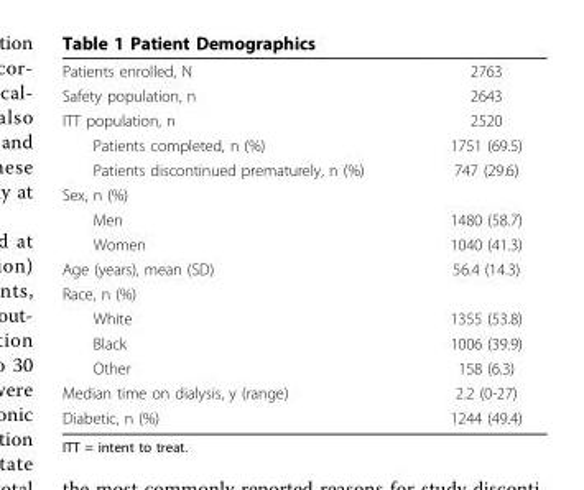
<table><tbody><tr><td>Patients enrolled, N</td><td>2763</td></tr><tr><td>Safety population, n</td><td>2643</td></tr><tr><td>ITT population, n</td><td>2520</td></tr><tr><td>Patients completed, n (%)</td><td>1751 (69.5)</td></tr><tr><td>Patients discontinued prematurely, n (%)</td><td>747 (29.6)</td></tr><tr><td colspan="2">Sex, n (%)</td></tr><tr><td>Men</td><td>1480 (58.7)</td></tr><tr><td>Women</td><td>1040 (41.3)</td></tr><tr><td>Age (years), mean (SD)</td><td>56.4 (14.3)</td></tr><tr><td colspan="2">Race, n (%)</td></tr><tr><td>White</td><td>1355 (53.8)</td></tr><tr><td>Black</td><td>1006 (39.9)</td></tr><tr><td>Other</td><td>158 (6.3)</td></tr><tr><td>Median time on dialysis, y (range)</td><td>2.2 (0-27)</td></tr><tr><td>Diabetic, n (%)</td><td>1244 (49.4)</td></tr></tbody></table>